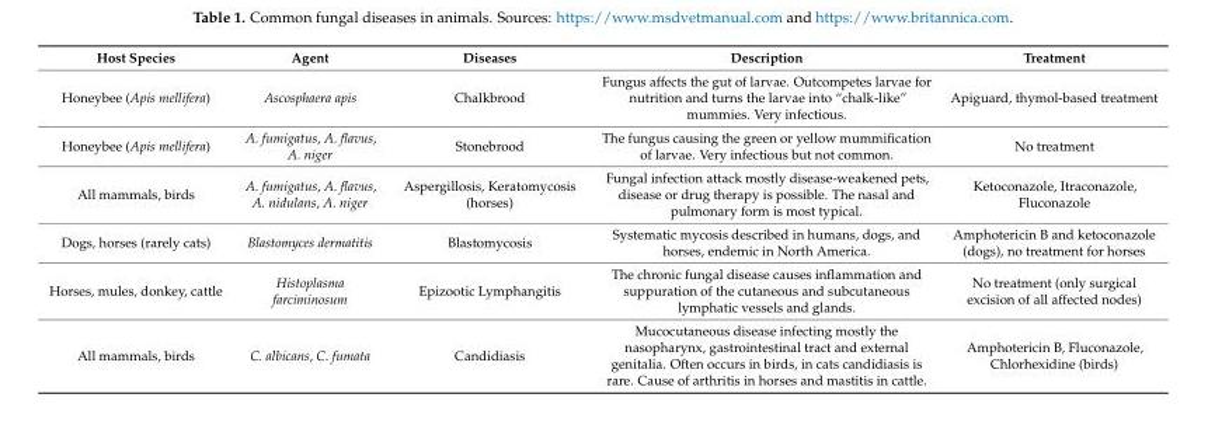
<table><thead><tr><td>Host Species</td><td>Agent</td><td>Diseases</td><td>Description</td><td>Treatment</td></tr></thead><tbody><tr><td>Honeybee (Apis mellifera)</td><td>Ascosphaera apis</td><td>Chalkbrood</td><td>Fungus affects the gut of larvae. Outcompetes larvae for nutrition and turns the larvae into “chalk-like” mummies. Very infectious.</td><td>Apiguard, thymol-based treatment</td></tr><tr><td>Honeybee (Apis mellifera)</td><td>A. fumigatus, A. flavus, A. niger</td><td>Stonebrood</td><td>The fungus causing the green or yellow mummification of larvae. Very infectious but not common.</td><td>No treatment</td></tr><tr><td>All mammals, birds</td><td>A. fumigatus, A. flavus, A. nidulans, A. niger</td><td>Aspergillosis, Keratomycosis (horses)</td><td>Fungal infection attack mostly disease-weakened pets, disease or drug therapy is possible. The nasal and pulmonary form is most typical.</td><td>Ketoconazole, Itraconazole, Fluconazole</td></tr><tr><td>Dogs, horses (rarely cats)</td><td>Blastomyces dermatitis</td><td>Blastomycosis</td><td>Systematic mycosis described in humans, dogs, and horses, endemic in North America.</td><td>Amphotericin B and ketoconazole (dogs), no treatment for horses</td></tr><tr><td>Horses, mules, donkey, cattle</td><td>Histoplasma farciminosum</td><td>Epizootic Lymphangitis</td><td>The chronic fungal disease causes inflammation and suppuration of the cutaneous and subcutaneous lymphatic vessels and glands.</td><td>No treatment (only surgical excision of all affected nodes)</td></tr><tr><td>All mammals, birds</td><td>C. albicans, C. fumata</td><td>Candidiasis</td><td>Mucocutaneous disease infecting mostly the nasopharynx, gastrointestinal tract and external genitalia. Often occurs in birds, in cats candidiasis is rare. Cause of arthritis in horses and mastitis in cattle.</td><td>Amphotericin B, Fluconazole, Chlorhexidine (birds)</td></tr></tbody></table>